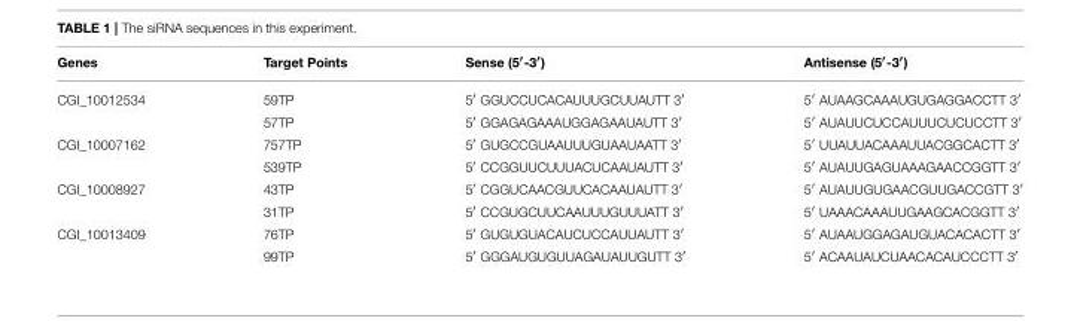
<table><thead><tr><td>Genes</td><td>Target Points</td><td>Sense (5′-3′)</td><td>Antisense (5′-3′)</td></tr></thead><tbody><tr><td rowspan="2">CGI_10012534</td><td>59TP</td><td>5′ GGUCCUCACAUUUGCUUAUTT 3′</td><td>5′ AUAAGCAAAUGUGAGGACCTT 3′</td></tr><tr><td>57TP</td><td>5′ GGAGAGAAAUGGAGAAUAUTT 3′</td><td>5′ AUAUUCUCCAUUUCUCUCCTT 3′</td></tr><tr><td rowspan="2">CGI_10007162</td><td>757TP</td><td>5′ GUGCCGUAAUUUGUAAUAATT 3′</td><td>5′ UUAUUACAAAUUACGGCACTT 3′</td></tr><tr><td>539TP</td><td>5′ CCGGUUCUUUACUCAAUAUTT 3′</td><td>5′ AUAUUGAGUAAAGAACCGGTT 3′</td></tr><tr><td rowspan="2">CGI_10008927</td><td>43TP</td><td>5′ CGGUCAACGUUCACAAUAUTT 3′</td><td>5′ AUAUUGUGAACGUUGACCGTT 3′</td></tr><tr><td>31TP</td><td>5′ CCGUGCUUCAAUUUGUUUATT 3′</td><td>5′ UAAACAAAUUGAAGCACGGTT 3′</td></tr><tr><td rowspan="2">CGI_10013409</td><td>76TP</td><td>5′ GUGUGUACAUCUCCAUUAUTT 3′</td><td>5′ AUAAUGGAGAUGUACACACTT 3′</td></tr><tr><td>99TP</td><td>5′ GGGAUGUGUUAGAUAUUGUTT 3′</td><td>5′ ACAAUAUCUAACACAUCCCTT 3′</td></tr></tbody></table>